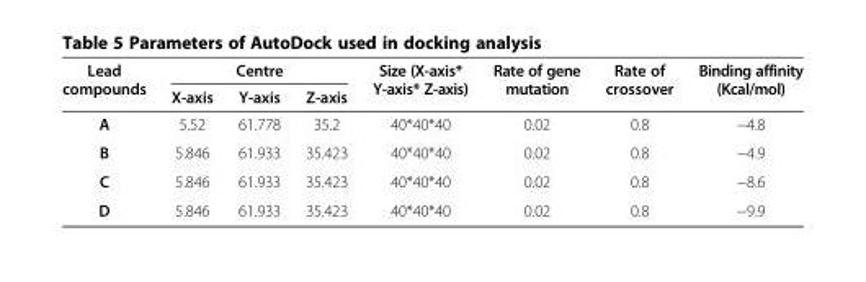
<table><thead><tr><td rowspan="2">Lead compounds</td><td colspan="3">Centre</td><td rowspan="2">Size (X-axis* Y-axis* Z-axis)</td><td rowspan="2">Rate of gene mutation</td><td rowspan="2">Rate of crossover</td><td rowspan="2">Binding affinity (Kcal/mol)</td></tr><tr><td>X-axis</td><td>Y-axis</td><td>Z-axis</td></tr></thead><tbody><tr><td>A</td><td>5.52</td><td>61.778</td><td>35.2</td><td>40*40*40</td><td>0.02</td><td>0.8</td><td>−4.8</td></tr><tr><td>B</td><td>5.846</td><td>61.933</td><td>35.423</td><td>40*40*40</td><td>0.02</td><td>0.8</td><td>−4.9</td></tr><tr><td>C</td><td>5.846</td><td>61.933</td><td>35.423</td><td>40*40*40</td><td>0.02</td><td>0.8</td><td>−8.6</td></tr><tr><td>D</td><td>5.846</td><td>61.933</td><td>35.423</td><td>40*40*40</td><td>0.02</td><td>0.8</td><td>−9.9</td></tr></tbody></table>